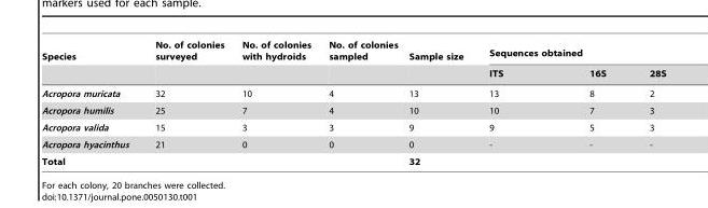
<table><thead><tr><td rowspan="2">Species</td><td rowspan="2">No. of colonies surveyed</td><td rowspan="2">No. of colonies with hydroids</td><td rowspan="2">No. of colonies sampled</td><td rowspan="2">Sample size</td><td colspan="3">Sequences obtained</td></tr><tr><td>ITS</td><td>16S</td><td>28S</td></tr></thead><tbody><tr><td>Acropora muricata</td><td>32</td><td>10</td><td>4</td><td>13</td><td>13</td><td>8</td><td>2</td></tr><tr><td>Acropora humilis</td><td>25</td><td>7</td><td>4</td><td>10</td><td>10</td><td>7</td><td>3</td></tr><tr><td>Acropora valida</td><td>15</td><td>3</td><td>3</td><td>9</td><td>9</td><td>5</td><td>3</td></tr><tr><td>Acropora hyacinthus</td><td>21</td><td>0</td><td>0</td><td>0</td><td>-</td><td>-</td><td>-</td></tr><tr><td>Total</td><td></td><td></td><td></td><td>32</td><td></td><td></td><td></td></tr></tbody></table>